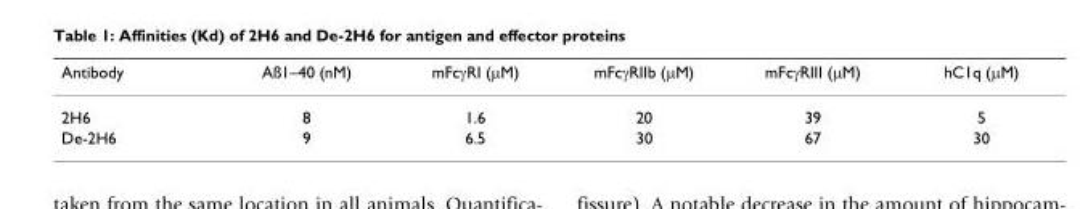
<table><thead><tr><td>Antibody</td><td>Aß1–40 (nM)</td><td>mFcγRI (µM)</td><td>mFcγRIIb (µM)</td><td>mFcγRIII (µM)</td><td>hC1q (µM)</td></tr></thead><tbody><tr><td>2H6</td><td>8</td><td>1.6</td><td>20</td><td>39</td><td>5</td></tr><tr><td>De-2H6</td><td>9</td><td>6.5</td><td>30</td><td>67</td><td>30</td></tr></tbody></table>